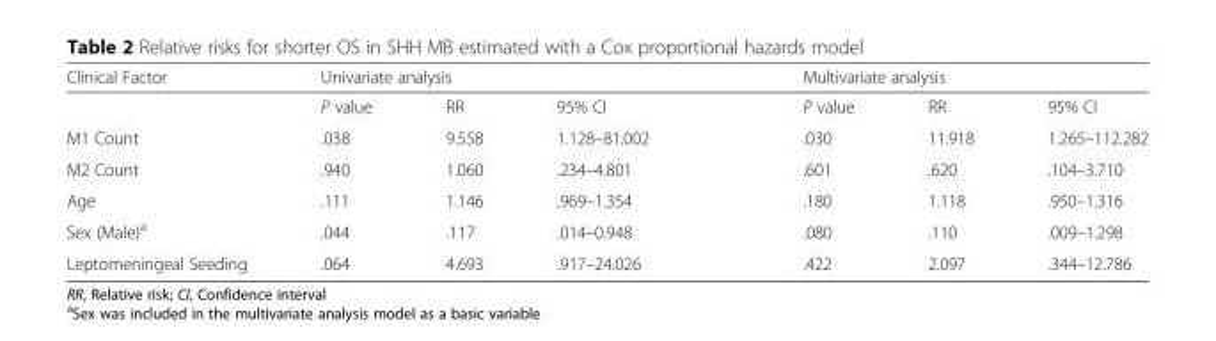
<table><thead><tr><td rowspan="2">Clinical Factor</td><td colspan="3">Univariate analysis</td><td colspan="3">Multivariate analysis</td></tr><tr><td>P value</td><td>RR</td><td>95% CI</td><td>P value</td><td>RR</td><td>95% CI</td></tr></thead><tbody><tr><td>M1 Count</td><td>.038</td><td>9.558</td><td>1.128–81.002</td><td>.030</td><td>11.918</td><td>1.265–112.282</td></tr><tr><td>M2 Count</td><td>.940</td><td>1.060</td><td>.234–4.801</td><td>.601</td><td>.620</td><td>.104–3.710</td></tr><tr><td>Age</td><td>.111</td><td>1.146</td><td>.969–1.354</td><td>.180</td><td>1.118</td><td>.950–1.316</td></tr><tr><td>Sex (Male)<sup>a</sup></td><td>.044</td><td>.117</td><td>.014–0.948</td><td>.080</td><td>.110</td><td>.009–1.298</td></tr><tr><td>Leptomeningeal Seeding</td><td>.064</td><td>4.693</td><td>.917–24.026</td><td>.422</td><td>2.097</td><td>.344–12.786</td></tr></tbody></table>